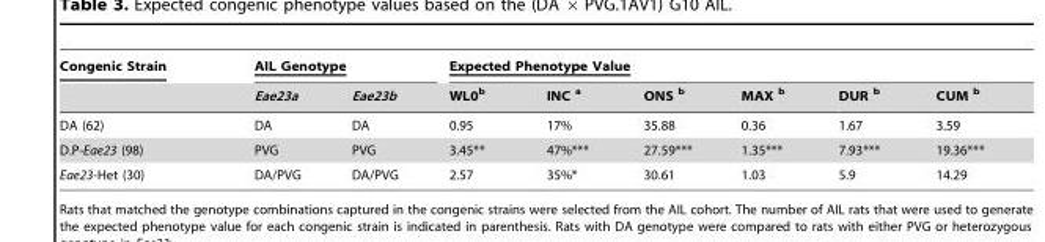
<table><thead><tr><td rowspan="2">Congenic Strain</td><td colspan="2">AIL Genotype</td><td colspan="6">Expected Phenotype Value</td></tr><tr><td>Eae23a</td><td>Eae23b</td><td>WL0<sup>b</sup></td><td>INC a</td><td>ONS b</td><td>MAX b</td><td>DUR b</td><td>CUM b</td></tr></thead><tbody><tr><td>DA (62)</td><td>DA</td><td>DA</td><td>0.95</td><td>17%</td><td>35.88</td><td>0.36</td><td>1.67</td><td>3.59</td></tr><tr><td>D.P-Eae23 (98)</td><td>PVG</td><td>PVG</td><td>3.45**</td><td>47%***</td><td>27.59***</td><td>1.35***</td><td>7.93***</td><td>19.36***</td></tr><tr><td>Eae23-Het (30)</td><td>DA/PVG</td><td>DA/PVG</td><td>2.57</td><td>35%*</td><td>30.61</td><td>1.03</td><td>5.9</td><td>14.29</td></tr></tbody></table>